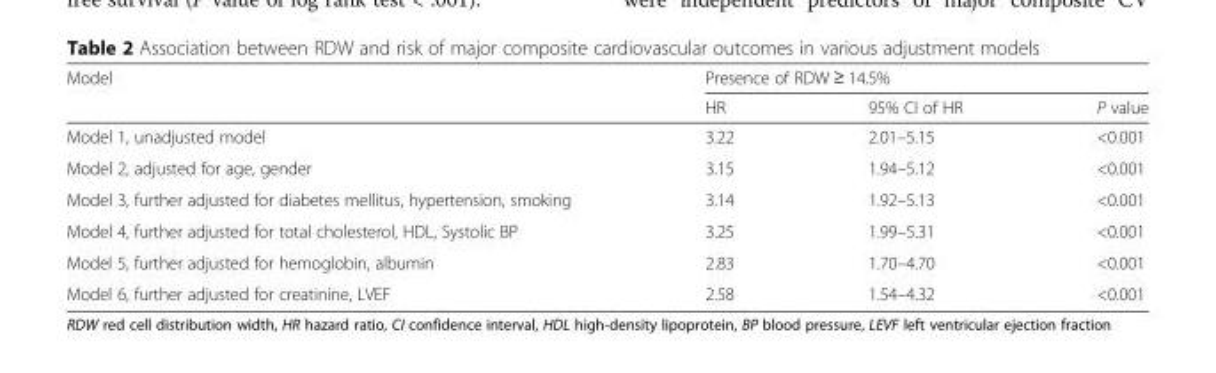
<table><thead><tr><td rowspan="2">Model</td><td colspan="3">Presence of RDW ≥ 14.5%</td></tr><tr><td>HR</td><td>95% CI of HR</td><td>P value</td></tr></thead><tbody><tr><td>Model 1, unadjusted model</td><td>3.22</td><td>2.01–5.15</td><td>&lt;0.001</td></tr><tr><td>Model 2, adjusted for age, gender</td><td>3.15</td><td>1.94–5.12</td><td>&lt;0.001</td></tr><tr><td>Model 3, further adjusted for diabetes mellitus, hypertension, smoking</td><td>3.14</td><td>1.92–5.13</td><td>&lt;0.001</td></tr><tr><td>Model 4, further adjusted for total cholesterol, HDL, Systolic BP</td><td>3.25</td><td>1.99–5.31</td><td>&lt;0.001</td></tr><tr><td>Model 5, further adjusted for hemoglobin, albumin</td><td>2.83</td><td>1.70–4.70</td><td>&lt;0.001</td></tr><tr><td>Model 6, further adjusted for creatinine, LVEF</td><td>2.58</td><td>1.54–4.32</td><td>&lt;0.001</td></tr></tbody></table>